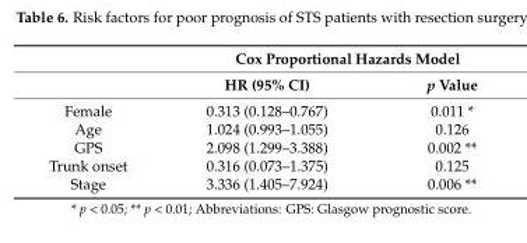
<table><thead><tr><td rowspan="2"></td><td colspan="2">Cox Proportional Hazards Model</td></tr><tr><td>HR (95% CI)</td><td>p Value</td></tr></thead><tbody><tr><td>Female</td><td>0.313 (0.128–0.767)</td><td>0.011 *</td></tr><tr><td>Age</td><td>1.024 (0.993–1.055)</td><td>0.126</td></tr><tr><td>GPS</td><td>2.098 (1.299–3.388)</td><td>0.002 **</td></tr><tr><td>Trunk onset</td><td>0.316 (0.073–1.375)</td><td>0.125</td></tr><tr><td>Stage</td><td>3.336 (1.405–7.924)</td><td>0.006 **</td></tr></tbody></table>